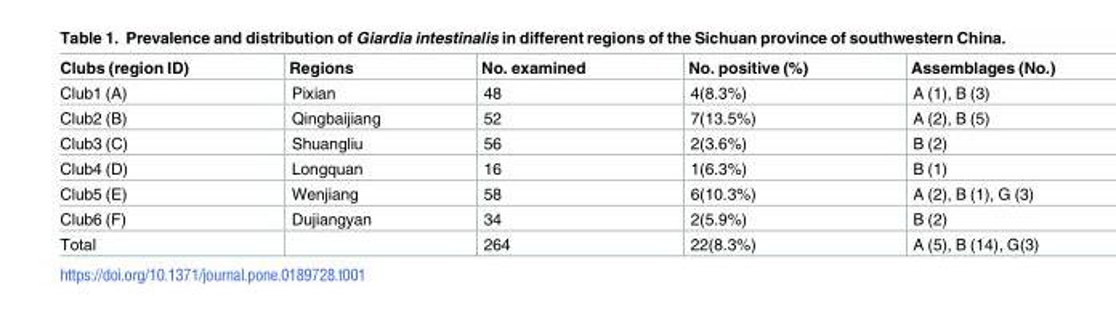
<table><thead><tr><td>Clubs (region ID)</td><td>Regions</td><td>No. examined</td><td>No. positive (%)</td><td>Assemblages (No.)</td></tr></thead><tbody><tr><td>Club1 (A)</td><td>Pixian</td><td>48</td><td>4(8.3%)</td><td>A (1), B (3)</td></tr><tr><td>Club2 (B)</td><td>Qingbaijiang</td><td>52</td><td>7(13.5%)</td><td>A (2), B (5)</td></tr><tr><td>Club3 (C)</td><td>Shuangliu</td><td>56</td><td>2(3.6%)</td><td>B (2)</td></tr><tr><td>Club4 (D)</td><td>Longquan</td><td>16</td><td>1(6.3%)</td><td>B (1)</td></tr><tr><td>Club5 (E)</td><td>Wenjiang</td><td>58</td><td>6(10.3%)</td><td>A (2), B (1), G (3)</td></tr><tr><td>Club6 (F)</td><td>Dujiangyan</td><td>34</td><td>2(5.9%)</td><td>B (2)</td></tr><tr><td>Total</td><td></td><td>264</td><td>22(8.3%)</td><td>A (5), B (14), G(3)</td></tr></tbody></table>